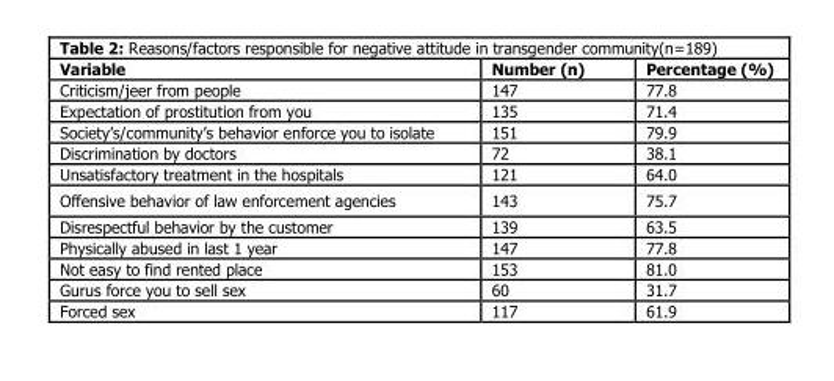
<table><thead><tr><td>Variable</td><td>Number (n)</td><td>Percentage (%)</td></tr></thead><tbody><tr><td>Criticism/jeer from people</td><td>147</td><td>77.8</td></tr><tr><td>Expectation of prostitution from you</td><td>135</td><td>71.4</td></tr><tr><td>Society’s/community’s behavior enforce you to isolate</td><td>151</td><td>79.9</td></tr><tr><td>Discrimination by doctors</td><td>72</td><td>38.1</td></tr><tr><td>Unsatisfactory treatment in the hospitals</td><td>121</td><td>64.0</td></tr><tr><td>Offensive behavior of law enforcement agencies</td><td>143</td><td>75.7</td></tr><tr><td>Disrespectful behavior by the customer</td><td>139</td><td>63.5</td></tr><tr><td>Physically abused in last 1 year</td><td>147</td><td>77.8</td></tr><tr><td>Not easy to find rented place</td><td>153</td><td>81.0</td></tr><tr><td>Gurus force you to sell sex</td><td>60</td><td>31.7</td></tr><tr><td>Forced sex</td><td>117</td><td>61.9</td></tr></tbody></table>